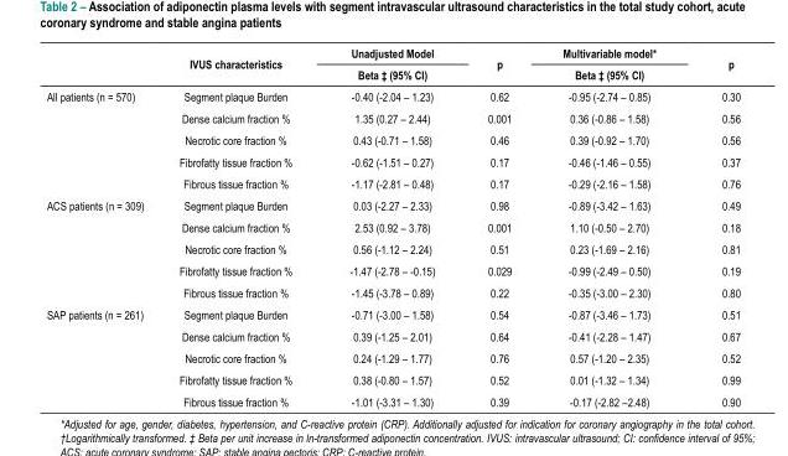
<table><thead><tr><td rowspan="2"></td><td rowspan="2">IVUS characteristics</td><td rowspan="2">Unadjusted Model Beta ‡ (95% CI)</td><td rowspan="2">p</td><td rowspan="2">Multivariable model* Beta ‡ (95% CI)</td><td rowspan="2">p</td></tr><tr></tr></thead><tbody><tr><td rowspan="5">All patients (n = 570)</td><td>Segment plaque Burden</td><td>-0.40 (-2.04 – 1.23)</td><td>0.62</td><td>-0.95 (-2.74 – 0.85)</td><td>0.30</td></tr><tr><td>Dense calcium fraction %</td><td>1.35 (0.27 – 2.44)</td><td>0.001</td><td>0.36 (-0.86 – 1.58)</td><td>0.56</td></tr><tr><td>Necrotic core fraction %</td><td>0.43 (-0.71 – 1.58)</td><td>0.46</td><td>0.39 (-0.92 – 1.70)</td><td>0.56</td></tr><tr><td>Fibrofatty tissue fraction %</td><td>-0.62 (-1.51 – 0.27)</td><td>0.17</td><td>-0.46 (-1.46 – 0.55)</td><td>0.37</td></tr><tr><td>Fibrous tissue fraction %</td><td>-1.17 (-2.81 – 0.48)</td><td>0.17</td><td>-0.29 (-2.16 – 1.58)</td><td>0.76</td></tr><tr><td rowspan="5">ACS patients (n = 309)</td><td>Segment plaque Burden</td><td>0.03 (-2.27 – 2.33)</td><td>0.98</td><td>-0.89 (-3.42 – 1.63)</td><td>0.49</td></tr><tr><td>Dense calcium fraction %</td><td>2.53 (0.92 – 3.78)</td><td>0.001</td><td>1.10 (-0.50 – 2.70)</td><td>0.18</td></tr><tr><td>Necrotic core fraction %</td><td>0.56 (-1.12 – 2.24)</td><td>0.51</td><td>0.23 (-1.69 – 2.16)</td><td>0.81</td></tr><tr><td>Fibrofatty tissue fraction %</td><td>-1.47 (-2.78 – -0.15)</td><td>0.029</td><td>-0.99 (-2.49 – 0.50)</td><td>0.19</td></tr><tr><td>Fibrous tissue fraction %</td><td>-1.45 (-3.78 – 0.89)</td><td>0.22</td><td>-0.35 (-3.00 – 2.30)</td><td>0.80</td></tr><tr><td rowspan="5">SAP patients (n = 261)</td><td>Segment plaque Burden</td><td>-0.71 (-3.00 – 1.58)</td><td>0.54</td><td>-0.87 (-3.46 – 1.73)</td><td>0.51</td></tr><tr><td>Dense calcium fraction %</td><td>0.39 (-1.25 – 2.01)</td><td>0.64</td><td>-0.41 (-2.28 – 1.47)</td><td>0.67</td></tr><tr><td>Necrotic core fraction %</td><td>0.24 (-1.29 – 1.77)</td><td>0.76</td><td>0.57 (-1.20 – 2.35)</td><td>0.52</td></tr><tr><td>Fibrofatty tissue fraction %</td><td>0.38 (-0.80 – 1.57)</td><td>0.52</td><td>0.01 (-1.32 – 1.34)</td><td>0.99</td></tr><tr><td>Fibrous tissue fraction %</td><td>-1.01 (-3.31 – 1.30)</td><td>0.39</td><td>-0.17 (-2.82 –2.48)</td><td>0.90</td></tr></tbody></table>